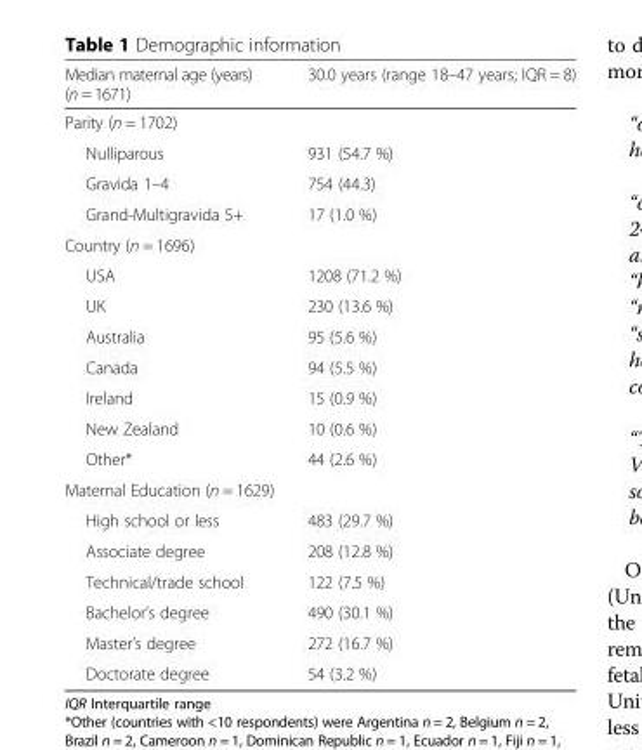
<table><thead><tr><td>Median maternal age (years) (n = 1671)</td><td>30.0 years (range 18–47 years; IQR = 8)</td></tr></thead><tbody><tr><td colspan="2">Parity (n = 1702)</td></tr><tr><td>Nulliparous</td><td>931 (54.7 %)</td></tr><tr><td>Gravida 1–4</td><td>754 (44.3)</td></tr><tr><td>Grand-Multigravida 5+</td><td>17 (1.0 %)</td></tr><tr><td colspan="2">Country (n = 1696)</td></tr><tr><td>USA</td><td>1208 (71.2 %)</td></tr><tr><td>UK</td><td>230 (13.6 %)</td></tr><tr><td>Australia</td><td>95 (5.6 %)</td></tr><tr><td>Canada</td><td>94 (5.5 %)</td></tr><tr><td>Ireland</td><td>15 (0.9 %)</td></tr><tr><td>New Zealand</td><td>10 (0.6 %)</td></tr><tr><td>Other*</td><td>44 (2.6 %)</td></tr><tr><td colspan="2">Maternal Education (n = 1629)</td></tr><tr><td>High school or less</td><td>483 (29.7 %)</td></tr><tr><td>Associate degree</td><td>208 (12.8 %)</td></tr><tr><td>Technical/trade school</td><td>122 (7.5 %)</td></tr><tr><td>Bachelor’s degree</td><td>490 (30.1 %)</td></tr><tr><td>Master’s degree</td><td>272 (16.7 %)</td></tr><tr><td>Doctorate degree</td><td>54 (3.2 %)</td></tr></tbody></table>